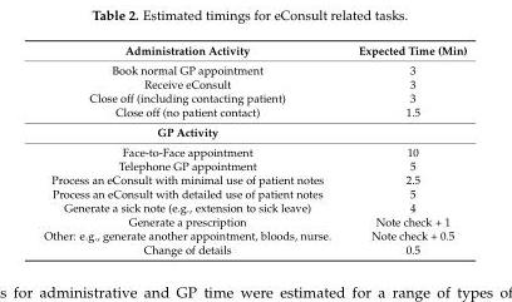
<table><tbody><tr><td>Administration Activity</td><td>Expected Time (Min)</td></tr><tr><td>Book normal GP appointment</td><td>3</td></tr><tr><td>Receive eConsult</td><td>3</td></tr><tr><td>Close off (including contacting patient)</td><td>3</td></tr><tr><td>Close off (no patient contact)</td><td>1.5</td></tr><tr><td colspan="2">GP Activity</td></tr><tr><td>Face-to-Face appointment</td><td>10</td></tr><tr><td>Telephone GP appointment</td><td>5</td></tr><tr><td>Process an eConsult with minimal use of patient notes</td><td>2.5</td></tr><tr><td>Process an eConsult with detailed use of patient notes</td><td>5</td></tr><tr><td>Generate a sick note (e.g., extension to sick leave)</td><td>4</td></tr><tr><td>Generate a prescription</td><td>Note check + 1</td></tr><tr><td>Other: e.g., generate another appointment, bloods, nurse.</td><td>Note check + 0.5</td></tr><tr><td>Change of details</td><td>0.5</td></tr></tbody></table>